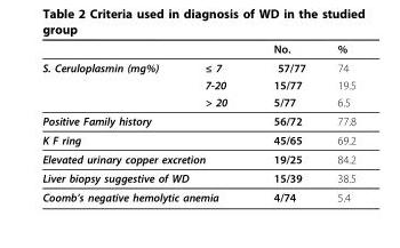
<table><thead><tr><td></td><td></td><td>No.</td><td>%</td></tr></thead><tbody><tr><td rowspan="3">S. Ceruloplasmin (mg%)</td><td>≤ 7</td><td>57/77</td><td>74</td></tr><tr><td>7-20</td><td>15/77</td><td>19.5</td></tr><tr><td>&gt; 20</td><td>5/77</td><td>6.5</td></tr><tr><td colspan="2">Positive Family history</td><td>56/72</td><td>77.8</td></tr><tr><td colspan="2">K F ring</td><td>45/65</td><td>69.2</td></tr><tr><td colspan="2">Elevated urinary copper excretion</td><td>19/25</td><td>84.2</td></tr><tr><td colspan="2">Liver biopsy suggestive of WD</td><td>15/39</td><td>38.5</td></tr><tr><td colspan="2">Coomb’s negative hemolytic anemia</td><td>4/74</td><td>5.4</td></tr></tbody></table>